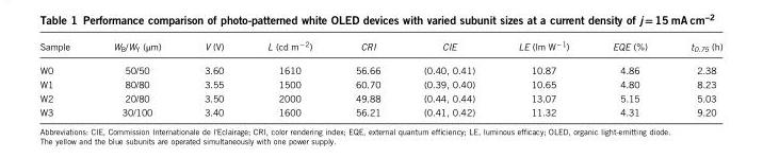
<table><thead><tr><td>Sample</td><td>W<sub>B</sub>/W<sub>Y</sub> (μm)</td><td>V (V)</td><td>L (cd m <sup>− 2</sup>)</td><td>CRI</td><td>CIE</td><td>LE (lm W <sup>− 1</sup>)</td><td>EQE (%)</td><td>t<sub>0.75</sub> (h)</td></tr></thead><tbody><tr><td>W0</td><td>50/50</td><td>3.60</td><td>1610</td><td>56.66</td><td>(0.40, 0.41)</td><td>10.87</td><td>4.86</td><td>2.38</td></tr><tr><td>W1</td><td>80/80</td><td>3.55</td><td>1500</td><td>60.70</td><td>(0.39, 0.40)</td><td>10.65</td><td>4.80</td><td>8.23</td></tr><tr><td>W2</td><td>20/80</td><td>3.50</td><td>2000</td><td>49.88</td><td>(0.44, 0.44)</td><td>13.07</td><td>5.15</td><td>5.03</td></tr><tr><td>W3</td><td>30/100</td><td>3.40</td><td>1600</td><td>56.21</td><td>(0.41, 0.42)</td><td>11.32</td><td>4.31</td><td>9.20</td></tr></tbody></table>